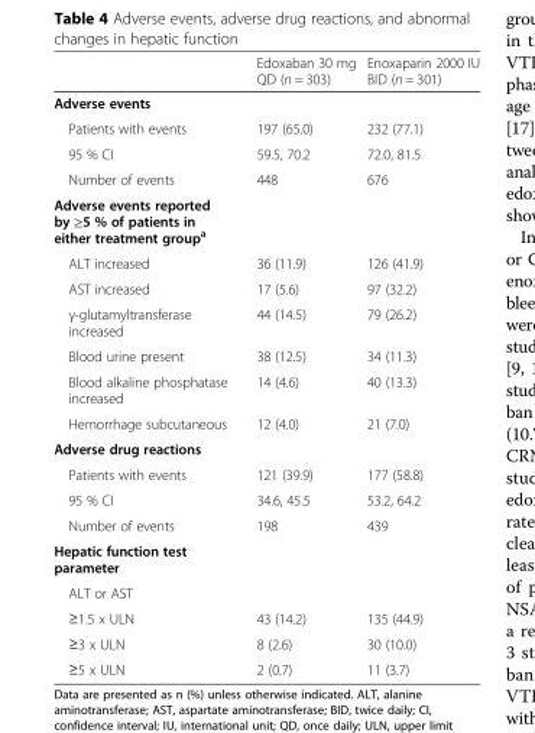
<table><thead><tr><td></td><td>Edoxaban 30 mg QD (n = 303)</td><td>Enoxaparin 2000 IU BID (n = 301)</td></tr></thead><tbody><tr><td colspan="3">Adverse events</td></tr><tr><td>Patients with events</td><td>197 (65.0)</td><td>232 (77.1)</td></tr><tr><td>95 % CI</td><td>59.5, 70.2</td><td>72.0, 81.5</td></tr><tr><td>Number of events</td><td>448</td><td>676</td></tr><tr><td colspan="3">Adverse events reported by ≥5 % of patients in either treatment group<sup>a</sup></td></tr><tr><td>ALT increased</td><td>36 (11.9)</td><td>126 (41.9)</td></tr><tr><td>AST increased</td><td>17 (5.6)</td><td>97 (32.2)</td></tr><tr><td>γ-glutamyltransferase increased</td><td>44 (14.5)</td><td>79 (26.2)</td></tr><tr><td>Blood urine present</td><td>38 (12.5)</td><td>34 (11.3)</td></tr><tr><td>Blood alkaline phosphatase increased</td><td>14 (4.6)</td><td>40 (13.3)</td></tr><tr><td>Hemorrhage subcutaneous</td><td>12 (4.0)</td><td>21 (7.0)</td></tr><tr><td colspan="3">Adverse drug reactions</td></tr><tr><td>Patients with events</td><td>121 (39.9)</td><td>177 (58.8)</td></tr><tr><td>95 % CI</td><td>34.6, 45.5</td><td>53.2, 64.2</td></tr><tr><td>Number of events</td><td>198</td><td>439</td></tr><tr><td colspan="3">Hepatic function test parameter</td></tr><tr><td colspan="3">ALT or AST</td></tr><tr><td>≥1.5 x ULN</td><td>43 (14.2)</td><td>135 (44.9)</td></tr><tr><td>≥3 x ULN</td><td>8 (2.6)</td><td>30 (10.0)</td></tr><tr><td>≥5 x ULN</td><td>2 (0.7)</td><td>11 (3.7)</td></tr></tbody></table>